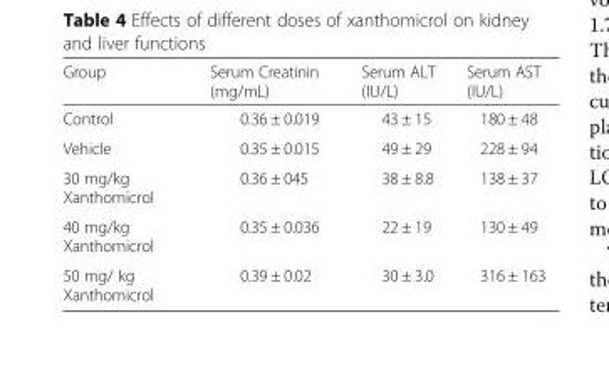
<table><thead><tr><td>Group</td><td>Serum Creatinin (mg/mL)</td><td>Serum ALT (IU/L)</td><td>Serum AST (IU/L)</td></tr></thead><tbody><tr><td>Control</td><td>0.36 ± 0.019</td><td>43 ± 15</td><td>180 ± 48</td></tr><tr><td>Vehicle</td><td>0.35 ± 0.015</td><td>49 ± 29</td><td>228 ± 94</td></tr><tr><td>30 mg/kg Xanthomicrol</td><td>0.36 ± 045</td><td>38 ± 8.8</td><td>138 ± 37</td></tr><tr><td>40 mg/kg Xanthomicrol</td><td>0.35 ± 0.036</td><td>22 ± 19</td><td>130 ± 49</td></tr><tr><td>50 mg/ kg Xanthomicrol</td><td>0.39 ± 0.02</td><td>30 ± 3.0</td><td>316 ± 163</td></tr></tbody></table>